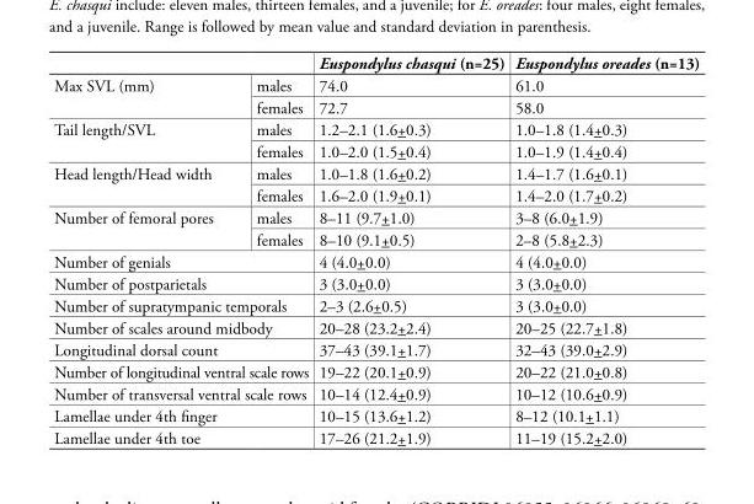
<table><thead><tr><td></td><td></td><td>Euspondylus chasqui (n=25)</td><td>Euspondylus oreades (n=13)</td></tr></thead><tbody><tr><td rowspan="2">Max SVL (mm)</td><td>males</td><td>74.0</td><td>61.0</td></tr><tr><td>females</td><td>72.7</td><td>58.0</td></tr><tr><td rowspan="2">Tail length/SVL</td><td>males</td><td>1.2–2.1 (1.6+0.3)</td><td>1.0–1.8 (1.4+0.3)</td></tr><tr><td>females</td><td>1.0–2.0 (1.5+0.4)</td><td>1.0–1.9 (1.4+0.4)</td></tr><tr><td rowspan="2">Head length/Head width</td><td>males</td><td>1.0–1.8 (1.6+0.2)</td><td>1.4–1.7 (1.6+0.1)</td></tr><tr><td>females</td><td>1.6–2.0 (1.9+0.1)</td><td>1.4–2.0 (1.7+0.2)</td></tr><tr><td rowspan="2">Number of femoral pores</td><td>males</td><td>8–11 (9.7+1.0)</td><td>3–8 (6.0+1.9)</td></tr><tr><td>females</td><td>8–10 (9.1+0.5)</td><td>2–8 (5.8+2.3)</td></tr><tr><td colspan="2">Number of genials</td><td>4 (4.0+0.0)</td><td>4 (4.0+0.0)</td></tr><tr><td colspan="2">Number of postparietals</td><td>3 (3.0+0.0)</td><td>3 (3.0+0.0)</td></tr><tr><td colspan="2">Number of supratympanic temporals</td><td>2–3 (2.6+0.5)</td><td>3 (3.0+0.0)</td></tr><tr><td colspan="2">Number of scales around midbody</td><td>20–28 (23.2+2.4)</td><td>20–25 (22.7+1.8)</td></tr><tr><td colspan="2">Longitudinal dorsal count</td><td>37–43 (39.1+1.7)</td><td>32–43 (39.0+2.9)</td></tr><tr><td colspan="2">Number of longitudinal ventral scale rows</td><td>19–22 (20.1+0.9)</td><td>20–22 (21.0+0.8)</td></tr><tr><td colspan="2">Number of transversal ventral scale rows</td><td>10–14 (12.4+0.9)</td><td>10–12 (10.6+0.9)</td></tr><tr><td colspan="2">Lamellae under 4th finger</td><td>10–15 (13.6+1.2)</td><td>8–12 (10.1+1.1)</td></tr><tr><td colspan="2">Lamellae under 4th toe</td><td>17–26 (21.2+1.9)</td><td>11–19 (15.2+2.0)</td></tr></tbody></table>